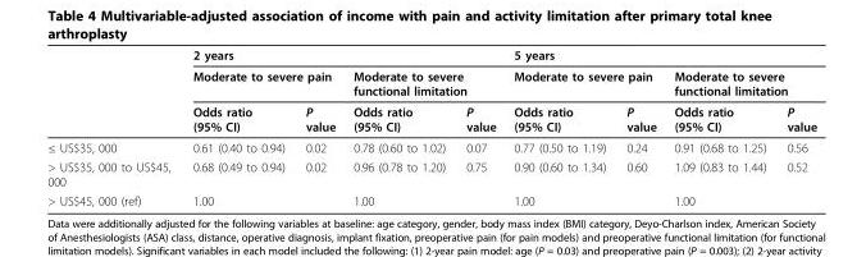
<table><thead><tr><td rowspan="3"></td><td colspan="4">2 years</td><td colspan="4">5 years</td></tr><tr><td colspan="2">Moderate to severe pain</td><td colspan="2">Moderate to severe functional limitation</td><td colspan="2">Moderate to severe pain</td><td colspan="2">Moderate to severe functional limitation</td></tr><tr><td>Odds ratio (95% CI)</td><td>P value</td><td>Odds ratio (95% CI)</td><td>P value</td><td>Odds ratio (95% CI)</td><td>P value</td><td>Odds ratio (95% CI)</td><td>P value</td></tr></thead><tbody><tr><td>≤ US$35, 000</td><td>0.61 (0.40 to 0.94)</td><td>0.02</td><td>0.78 (0.60 to 1.02)</td><td>0.07</td><td>0.77 (0.50 to 1.19)</td><td>0.24</td><td>0.91 (0.68 to 1.25)</td><td>0.56</td></tr><tr><td>&gt; US$35, 000 to US$45, 000</td><td>0.68 (0.49 to 0.94)</td><td>0.02</td><td>0.96 (0.78 to 1.20)</td><td>0.75</td><td>0.90 (0.60 to 1.34)</td><td>0.60</td><td>1.09 (0.83 to 1.44)</td><td>0.52</td></tr><tr><td>&gt; US$45, 000 (ref)</td><td>1.00</td><td></td><td>1.00</td><td></td><td>1.00</td><td></td><td>1.00</td><td></td></tr></tbody></table>